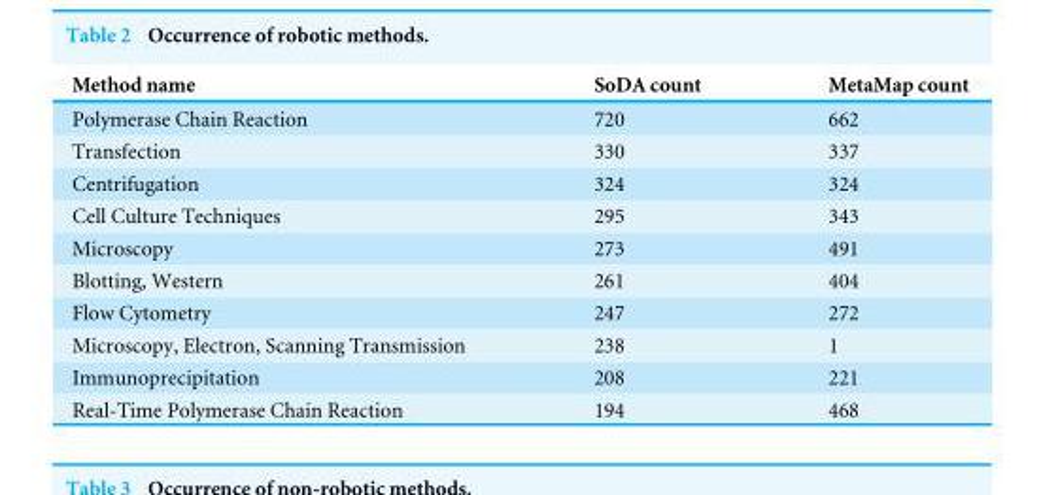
<table><thead><tr><td>Method name</td><td>SoDA count</td><td>MetaMap count</td></tr></thead><tbody><tr><td>Polymerase Chain Reaction</td><td>720</td><td>662</td></tr><tr><td>Transfection</td><td>330</td><td>337</td></tr><tr><td>Centrifugation</td><td>324</td><td>324</td></tr><tr><td>Cell Culture Techniques</td><td>295</td><td>343</td></tr><tr><td>Microscopy</td><td>273</td><td>491</td></tr><tr><td>Blotting, Western</td><td>261</td><td>404</td></tr><tr><td>Flow Cytometry</td><td>247</td><td>272</td></tr><tr><td>Microscopy, Electron, Scanning Transmission</td><td>238</td><td>1</td></tr><tr><td>Immunoprecipitation</td><td>208</td><td>221</td></tr><tr><td>Real-Time Polymerase Chain Reaction</td><td>194</td><td>468</td></tr></tbody></table>